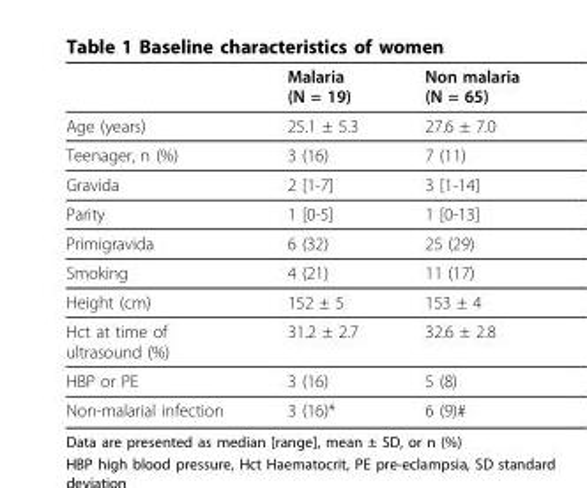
<table><thead><tr><td></td><td>Malaria (N = 19)</td><td>Non malaria (N = 65)</td></tr></thead><tbody><tr><td>Age (years)</td><td>25.1 ± 5.3</td><td>27.6 ± 7.0</td></tr><tr><td>Teenager, n (%)</td><td>3 (16)</td><td>7 (11)</td></tr><tr><td>Gravida</td><td>2 [1-7]</td><td>3 [1-14]</td></tr><tr><td>Parity</td><td>1 [0-5]</td><td>1 [0-13]</td></tr><tr><td>Primigravida</td><td>6 (32)</td><td>25 (29)</td></tr><tr><td>Smoking</td><td>4 (21)</td><td>11 (17)</td></tr><tr><td>Height (cm)</td><td>152 ± 5</td><td>153 ± 4</td></tr><tr><td>Hct at time of ultrasound (%)</td><td>31.2 ± 2.7</td><td>32.6 ± 2.8</td></tr><tr><td>HBP or PE</td><td>3 (16)</td><td>5 (8)</td></tr><tr><td>Non-malarial infection</td><td>3 (16)*</td><td>6 (9)#</td></tr></tbody></table>